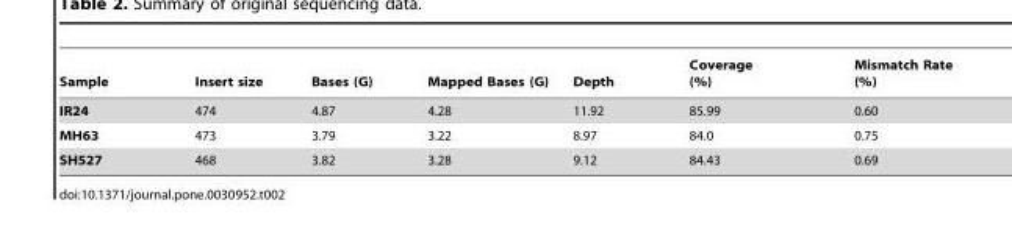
<table><thead><tr><td>Sample</td><td>Insert size</td><td>Bases (G)</td><td>Mapped Bases (G)</td><td>Depth</td><td>Coverage (%)</td><td>Mismatch Rate (%)</td></tr></thead><tbody><tr><td>IR24</td><td>474</td><td>4.87</td><td>4.28</td><td>11.92</td><td>85.99</td><td>0.60</td></tr><tr><td>MH63</td><td>473</td><td>3.79</td><td>3.22</td><td>8.97</td><td>84.0</td><td>0.75</td></tr><tr><td>SH527</td><td>468</td><td>3.82</td><td>3.28</td><td>9.12</td><td>84.43</td><td>0.69</td></tr></tbody></table>